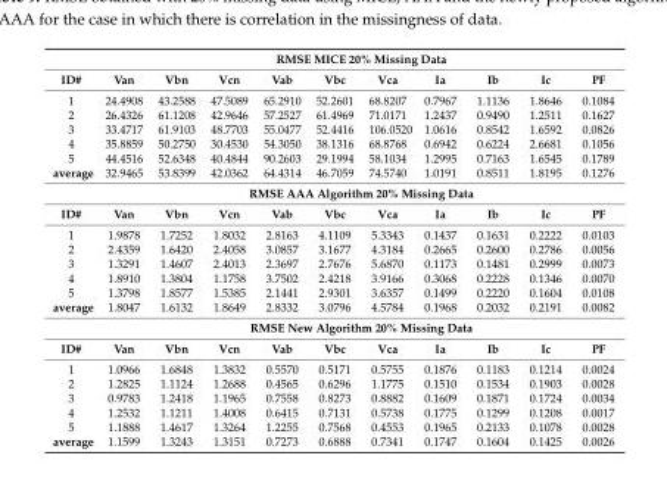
<table><thead><tr><td rowspan="2">ID#</td><td colspan="10">RMSE MICE 20% Missing Data</td></tr><tr><td>Van</td><td>Vbn</td><td>Vcn</td><td>Vab</td><td>Vbc</td><td>Vca</td><td>Ia</td><td>Ib</td><td>Ic</td><td>PF</td></tr></thead><tbody><tr><td>1</td><td>24.4908</td><td>43.2588</td><td>47.5089</td><td>65.2910</td><td>52.2601</td><td>68.8207</td><td>0.7967</td><td>1.1136</td><td>1.8646</td><td>0.1084</td></tr><tr><td>2</td><td>26.4326</td><td>61.1208</td><td>42.9646</td><td>57.2527</td><td>61.4969</td><td>71.0171</td><td>1.2437</td><td>0.9490</td><td>1.2511</td><td>0.1627</td></tr><tr><td>3</td><td>33.4717</td><td>61.9103</td><td>48.7703</td><td>55.0477</td><td>52.4416</td><td>106.0520</td><td>1.0616</td><td>0.8542</td><td>1.6592</td><td>0.0826</td></tr><tr><td>4</td><td>35.8859</td><td>50.2750</td><td>30.4530</td><td>54.3050</td><td>38.1316</td><td>68.8768</td><td>0.6942</td><td>0.6224</td><td>2.6681</td><td>0.1056</td></tr><tr><td>5</td><td>44.4516</td><td>52.6348</td><td>40.4844</td><td>90.2603</td><td>29.1994</td><td>58.1034</td><td>1.2995</td><td>0.7163</td><td>1.6545</td><td>0.1789</td></tr><tr><td rowspan="2">average</td><td>32.9465</td><td>53.8399</td><td>42.0362</td><td>64.4314</td><td>46.7059</td><td>74.5740</td><td>1.0191</td><td>0.8511</td><td>1.8195</td><td>0.1276</td></tr><tr><td colspan="10">RMSE AAA Algorithm 20% Missing Data</td></tr><tr><td>ID#</td><td>Van</td><td>Vbn</td><td>Vcn</td><td>Vab</td><td>Vbc</td><td>Vca</td><td>Ia</td><td>Ib</td><td>Ic</td><td>PF</td></tr><tr><td>1</td><td>1.9878</td><td>1.7252</td><td>1.8032</td><td>2.8163</td><td>4.1109</td><td>5.3343</td><td>0.1437</td><td>0.1631</td><td>0.2222</td><td>0.0103</td></tr><tr><td>2</td><td>2.4359</td><td>1.6420</td><td>2.4058</td><td>3.0857</td><td>3.1677</td><td>4.3184</td><td>0.2665</td><td>0.2600</td><td>0.2786</td><td>0.0056</td></tr><tr><td>3</td><td>1.3291</td><td>1.4607</td><td>2.4013</td><td>2.3697</td><td>2.7676</td><td>5.6870</td><td>0.1173</td><td>0.1481</td><td>0.2999</td><td>0.0073</td></tr><tr><td>4</td><td>1.8910</td><td>1.3804</td><td>1.1758</td><td>3.7502</td><td>2.4218</td><td>3.9166</td><td>0.3068</td><td>0.2228</td><td>0.1346</td><td>0.0070</td></tr><tr><td>5</td><td>1.3798</td><td>1.8577</td><td>1.5385</td><td>2.1441</td><td>2.9301</td><td>3.6357</td><td>0.1499</td><td>0.2220</td><td>0.1604</td><td>0.0108</td></tr><tr><td rowspan="2">average</td><td>1.8047</td><td>1.6132</td><td>1.8649</td><td>2.8332</td><td>3.0796</td><td>4.5784</td><td>0.1968</td><td>0.2032</td><td>0.2191</td><td>0.0082</td></tr><tr><td colspan="10">RMSE New Algorithm 20% Missing Data</td></tr><tr><td>ID#</td><td>Van</td><td>Vbn</td><td>Vcn</td><td>Vab</td><td>Vbc</td><td>Vca</td><td>Ia</td><td>Ib</td><td>Ic</td><td>PF</td></tr><tr><td>1</td><td>1.0966</td><td>1.6848</td><td>1.3832</td><td>0.5570</td><td>0.5171</td><td>0.5755</td><td>0.1876</td><td>0.1183</td><td>0.1214</td><td>0.0024</td></tr><tr><td>2</td><td>1.2825</td><td>1.1124</td><td>1.2688</td><td>0.4565</td><td>0.6296</td><td>1.1775</td><td>0.1510</td><td>0.1534</td><td>0.1903</td><td>0.0028</td></tr><tr><td>3</td><td>0.9783</td><td>1.2418</td><td>1.1965</td><td>0.7558</td><td>0.8273</td><td>0.8882</td><td>0.1609</td><td>0.1871</td><td>0.1724</td><td>0.0034</td></tr><tr><td>4</td><td>1.2532</td><td>1.1211</td><td>1.4008</td><td>0.6415</td><td>0.7131</td><td>0.5738</td><td>0.1775</td><td>0.1299</td><td>0.1208</td><td>0.0017</td></tr><tr><td>5</td><td>1.1888</td><td>1.4617</td><td>1.3264</td><td>1.2255</td><td>0.7568</td><td>0.4553</td><td>0.1965</td><td>0.2133</td><td>0.1078</td><td>0.0028</td></tr><tr><td>average</td><td>1.1599</td><td>1.3243</td><td>1.3151</td><td>0.7273</td><td>0.6888</td><td>0.7341</td><td>0.1747</td><td>0.1604</td><td>0.1425</td><td>0.0026</td></tr></tbody></table>